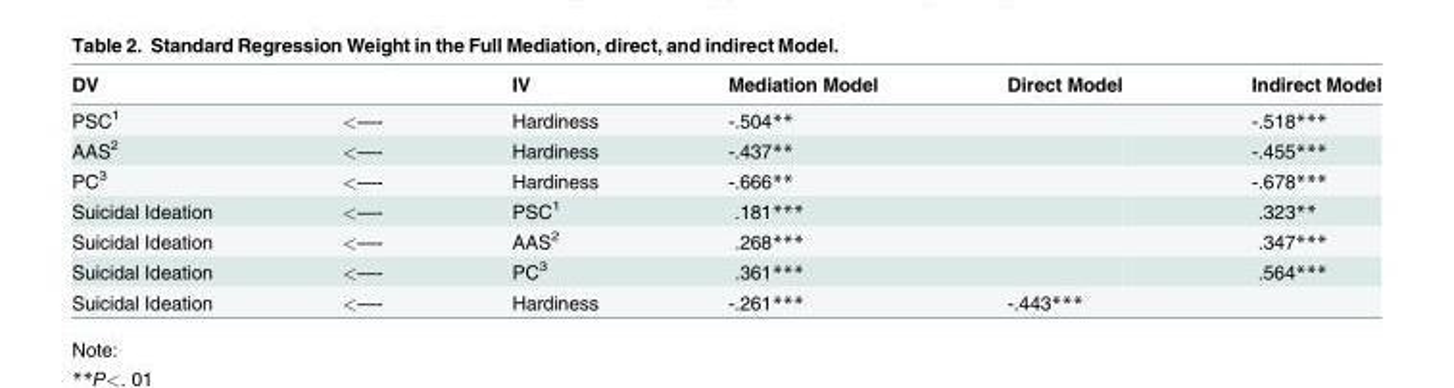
<table><thead><tr><td>DV</td><td></td><td>IV</td><td>Mediation Model</td><td>Direct Model</td><td>Indirect Model</td></tr></thead><tbody><tr><td>PSC<sup>1</sup></td><td>&lt;—-</td><td>Hardiness</td><td>-.504**</td><td></td><td>-.518***</td></tr><tr><td>AAS<sup>2</sup></td><td>&lt;—-</td><td>Hardiness</td><td>-.437**</td><td></td><td>-.455***</td></tr><tr><td>PC<sup>3</sup></td><td>&lt;—-</td><td>Hardiness</td><td>-.666**</td><td></td><td>-.678***</td></tr><tr><td>Suicidal Ideation</td><td>&lt;—-</td><td>PSC<sup>1</sup></td><td>.181***</td><td></td><td>.323**</td></tr><tr><td>Suicidal Ideation</td><td>&lt;—-</td><td>AAS<sup>2</sup></td><td>.268***</td><td></td><td>.347***</td></tr><tr><td>Suicidal Ideation</td><td>&lt;—-</td><td>PC<sup>3</sup></td><td>.361***</td><td></td><td>.564***</td></tr><tr><td>Suicidal Ideation</td><td>&lt;—-</td><td>Hardiness</td><td>-.261***</td><td>-.443***</td><td></td></tr></tbody></table>